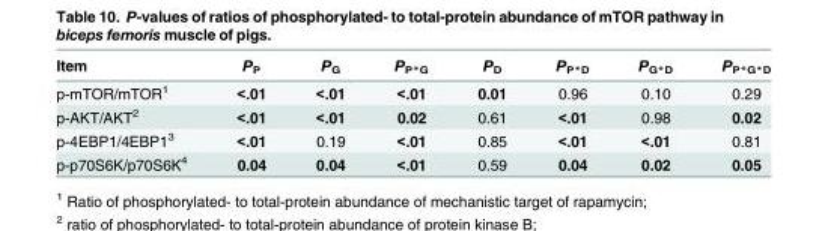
<table><thead><tr><td>Item</td><td>P<sub>P</sub></td><td>P<sub>G</sub></td><td>P<sub>P*G</sub></td><td>P<sub>D</sub></td><td>P<sub>P*D</sub></td><td>P<sub>G*D</sub></td><td>P<sub>P*G*D</sub></td></tr></thead><tbody><tr><td>p-mTOR/mTOR<sup>1</sup></td><td>&lt;.01</td><td>&lt;.01</td><td>&lt;.01</td><td>0.01</td><td>0.96</td><td>0.10</td><td>0.29</td></tr><tr><td>p-AKT/AKT<sup>2</sup></td><td>&lt;.01</td><td>&lt;.01</td><td>0.02</td><td>0.61</td><td>&lt;.01</td><td>0.98</td><td>0.02</td></tr><tr><td>p-4EBP1/4EBP1<sup>3</sup></td><td>&lt;.01</td><td>0.19</td><td>&lt;.01</td><td>0.85</td><td>&lt;.01</td><td>&lt;.01</td><td>0.81</td></tr><tr><td>p-p70S6K/p70S6K<sup>4</sup></td><td>0.04</td><td>0.04</td><td>&lt;.01</td><td>0.59</td><td>0.04</td><td>0.02</td><td>0.05</td></tr></tbody></table>